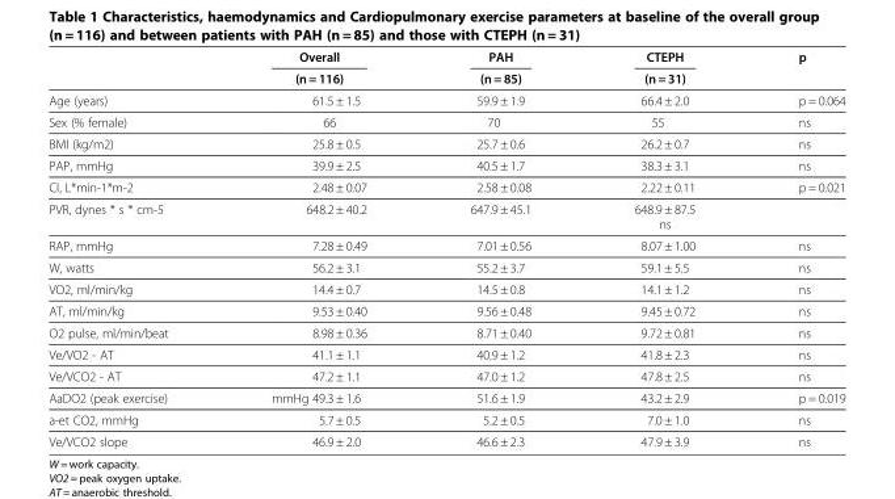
<table><thead><tr><td rowspan="2"></td><td rowspan="2">Overall (n = 116)</td><td rowspan="2">PAH (n = 85)</td><td rowspan="2">CTEPH (n = 31)</td><td rowspan="2">p</td></tr><tr></tr></thead><tbody><tr><td>Age (years)</td><td>61.5 ± 1.5</td><td>59.9 ± 1.9</td><td>66.4 ± 2.0</td><td>p = 0.064</td></tr><tr><td>Sex (% female)</td><td>66</td><td>70</td><td>55</td><td>ns</td></tr><tr><td>BMI (kg/m2)</td><td>25.8 ± 0.5</td><td>25.7 ± 0.6</td><td>26.2 ± 0.7</td><td>ns</td></tr><tr><td>PAP, mmHg</td><td>39.9 ± 2.5</td><td>40.5 ± 1.7</td><td>38.3 ± 3.1</td><td>ns</td></tr><tr><td>CI, L*min-1*m-2</td><td>2.48 ± 0.07</td><td>2.58 ± 0.08</td><td>2.22 ± 0.11</td><td>p = 0.021</td></tr><tr><td>PVR, dynes * s * cm-5</td><td>648.2 ± 40.2</td><td>647.9 ± 45.1</td><td>648.9 ± 87.5 ns</td><td></td></tr><tr><td>RAP, mmHg</td><td>7.28 ± 0.49</td><td>7.01 ± 0.56</td><td>8.07 ± 1.00</td><td>ns</td></tr><tr><td>W, watts</td><td>56.2 ± 3.1</td><td>55.2 ± 3.7</td><td>59.1 ± 5.5</td><td>ns</td></tr><tr><td>VO2, ml/min/kg</td><td>14.4 ± 0.7</td><td>14.5 ± 0.8</td><td>14.1 ± 1.2</td><td>ns</td></tr><tr><td>AT, ml/min/kg</td><td>9.53 ± 0.40</td><td>9.56 ± 0.48</td><td>9.45 ± 0.72</td><td>ns</td></tr><tr><td>O2 pulse, ml/min/beat</td><td>8.98 ± 0.36</td><td>8.71 ± 0.40</td><td>9.72 ± 0.81</td><td>ns</td></tr><tr><td>Ve/VO2 - AT</td><td>41.1 ± 1.1</td><td>40.9 ± 1.2</td><td>41.8 ± 2.3</td><td>ns</td></tr><tr><td>Ve/VCO2 - AT</td><td>47.2 ± 1.1</td><td>47.0 ± 1.2</td><td>47.8 ± 2.5</td><td>ns</td></tr><tr><td>AaDO2 (peak exercise)</td><td>mmHg 49.3 ± 1.6</td><td>51.6 ± 1.9</td><td>43.2 ± 2.9</td><td>p = 0.019</td></tr><tr><td>a-et CO2, mmHg</td><td>5.7 ± 0.5</td><td>5.2 ± 0.5</td><td>7.0 ± 1.0</td><td>ns</td></tr><tr><td>Ve/VCO2 slope</td><td>46.9 ± 2.0</td><td>46.6 ± 2.3</td><td>47.9 ± 3.9</td><td>ns</td></tr></tbody></table>